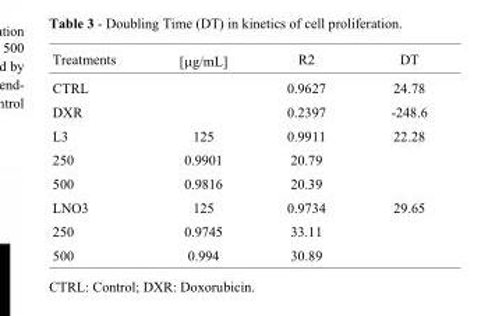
<table><thead><tr><td>Treatments</td><td>[μg/mL]</td><td>R2</td><td>DT</td></tr></thead><tbody><tr><td>CTRL</td><td></td><td>0.9627</td><td>24.78</td></tr><tr><td>DXR</td><td></td><td>0.2397</td><td>-248.6</td></tr><tr><td>L3</td><td>125</td><td>0.9911</td><td>22.28</td></tr><tr><td>250</td><td>0.9901</td><td>20.79</td><td></td></tr><tr><td>500</td><td>0.9816</td><td>20.39</td><td></td></tr><tr><td>LNO3</td><td>125</td><td>0.9734</td><td>29.65</td></tr><tr><td>250</td><td>0.9745</td><td>33.11</td><td></td></tr><tr><td>500</td><td>0.994</td><td>30.89</td><td></td></tr></tbody></table>